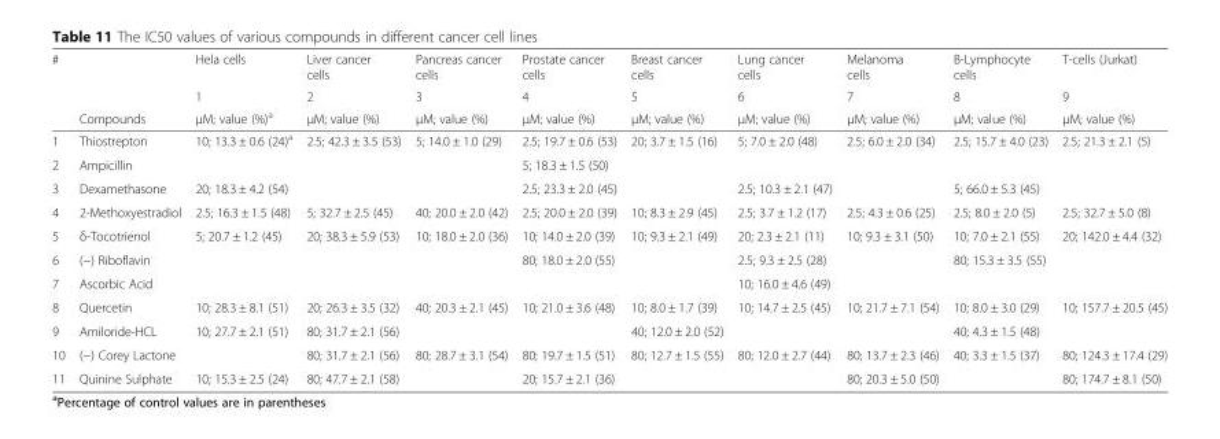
<table><thead><tr><td rowspan="3">#</td><td rowspan="3">Compounds</td><td rowspan="3">Hela cells 1 μM; value (%)a</td><td rowspan="3">Liver cancer cells 2 μM; value (%)</td><td rowspan="3">Pancreas cancer cells 3 μM; value (%)</td><td rowspan="3">Prostate cancer cells 4 μM; value (%)</td><td rowspan="3">Breast cancer cells 5 μM; value (%)</td><td rowspan="3">Lung cancer cells 6 μM; value (%)</td><td rowspan="3">Melanoma cells 7 μM; value (%)</td><td rowspan="3">B-Lymphocyte cells 8 μM; value (%)</td><td rowspan="3">T-cells (Jurkat) 9 μM; value (%)</td></tr><tr></tr><tr></tr></thead><tbody><tr><td>1</td><td>Thiostrepton</td><td>10; 13.3 ± 0.6 (24)<sup>a</sup></td><td>2.5; 42.3 ± 3.5 (53)</td><td>5; 14.0 ± 1.0 (29)</td><td>2.5; 19.7 ± 0.6 (53)</td><td>20; 3.7 ± 1.5 (16)</td><td>5; 7.0 ± 2.0 (48)</td><td>2.5; 6.0 ± 2.0 (34)</td><td>2.5; 15.7 ± 4.0 (23)</td><td>2.5; 21.3 ± 2.1 (5)</td></tr><tr><td>2</td><td>Ampicillin</td><td></td><td></td><td></td><td>5; 18.3 ± 1.5 (50)</td><td></td><td></td><td></td><td></td><td></td></tr><tr><td>3</td><td>Dexamethasone</td><td>20; 18.3 ± 4.2 (54)</td><td></td><td></td><td>2.5; 23.3 ± 2.0 (45)</td><td></td><td>2.5; 10.3 ± 2.1 (47)</td><td></td><td>5; 66.0 ± 5.3 (45)</td><td></td></tr><tr><td>4</td><td>2-Methoxyestradiol</td><td>2.5; 16.3 ± 1.5 (48)</td><td>5; 32.7 ± 2.5 (45)</td><td>40; 20.0 ± 2.0 (42)</td><td>2.5; 20.0 ± 2.0 (39)</td><td>10; 8.3 ± 2.9 (45)</td><td>2.5; 3.7 ± 1.2 (17)</td><td>2.5; 4.3 ± 0.6 (25)</td><td>2.5; 8.0 ± 2.0 (5)</td><td>2.5; 32.7 ± 5.0 (8)</td></tr><tr><td>5</td><td>δ-Tocotrienol</td><td>5; 20.7 ± 1.2 (45)</td><td>20; 38.3 ± 5.9 (53)</td><td>10; 18.0 ± 2.0 (36)</td><td>10; 14.0 ± 2.0 (39)</td><td>10; 9.3 ± 2.1 (49)</td><td>20; 2.3 ± 2.1 (11)</td><td>10; 9.3 ± 3.1 (50)</td><td>10; 7.0 ± 2.1 (55)</td><td>20; 142.0 ± 4.4 (32)</td></tr><tr><td>6</td><td>(−) Riboflavin</td><td></td><td></td><td></td><td>80; 18.0 ± 2.0 (55)</td><td></td><td>2.5; 9.3 ± 2.5 (28)</td><td></td><td>80; 15.3 ± 3.5 (55)</td><td></td></tr><tr><td>7</td><td>Ascorbic Acid</td><td></td><td></td><td></td><td></td><td></td><td>10; 16.0 ± 4.6 (49)</td><td></td><td></td><td></td></tr><tr><td>8</td><td>Quercetin</td><td>10; 28.3 ± 8.1 (51)</td><td>20; 26.3 ± 3.5 (32)</td><td>40; 20.3 ± 2.1 (45)</td><td>10; 21.0 ± 3.6 (48)</td><td>10; 8.0 ± 1.7 (39)</td><td>10; 14.7 ± 2.5 (45)</td><td>10; 21.7 ± 7.1 (54)</td><td>10; 8.0 ± 3.0 (29)</td><td>10; 157.7 ± 20.5 (45)</td></tr><tr><td>9</td><td>Amiloride-HCL</td><td>10; 27.7 ± 2.1 (51)</td><td>80; 31.7 ± 2.1 (56)</td><td></td><td></td><td>40; 12.0 ± 2.0 (52)</td><td></td><td></td><td>40; 4.3 ± 1.5 (48)</td><td></td></tr><tr><td>10</td><td>(−) Corey Lactone</td><td></td><td>80; 31.7 ± 2.1 (56)</td><td>80; 28.7 ± 3.1 (54)</td><td>80; 19.7 ± 1.5 (51)</td><td>80; 12.7 ± 1.5 (55)</td><td>80; 12.0 ± 2.7 (44)</td><td>80; 13.7 ± 2.3 (46)</td><td>40; 3.3 ± 1.5 (37)</td><td>80; 124.3 ± 17.4 (29)</td></tr><tr><td>11</td><td>Quinine Sulphate</td><td>10; 15.3 ± 2.5 (24)</td><td>80; 47.7 ± 2.1 (58)</td><td></td><td>20; 15.7 ± 2.1 (36)</td><td></td><td></td><td>80; 20.3 ± 5.0 (50)</td><td></td><td>80; 174.7 ± 8.1 (50)</td></tr></tbody></table>